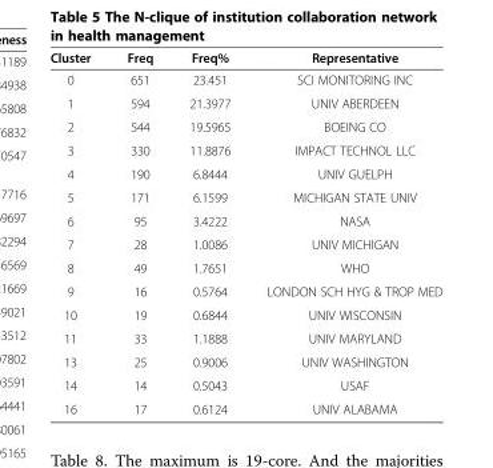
<table><thead><tr><td>Cluster</td><td>Freq</td><td>Freq%</td><td>Representative</td></tr></thead><tbody><tr><td>0</td><td>651</td><td>23.451</td><td>SCI MONITORING INC</td></tr><tr><td>1</td><td>594</td><td>21.3977</td><td>UNIV ABERDEEN</td></tr><tr><td>2</td><td>544</td><td>19.5965</td><td>BOEING CO</td></tr><tr><td>3</td><td>330</td><td>11.8876</td><td>IMPACT TECHNOL LLC</td></tr><tr><td>4</td><td>190</td><td>6.8444</td><td>UNIV GUELPH</td></tr><tr><td>5</td><td>171</td><td>6.1599</td><td>MICHIGAN STATE UNIV</td></tr><tr><td>6</td><td>95</td><td>3.4222</td><td>NASA</td></tr><tr><td>7</td><td>28</td><td>1.0086</td><td>UNIV MICHIGAN</td></tr><tr><td>8</td><td>49</td><td>1.7651</td><td>WHO</td></tr><tr><td>9</td><td>16</td><td>0.5764</td><td>LONDON SCH HYG &amp; TROP MED</td></tr><tr><td>10</td><td>19</td><td>0.6844</td><td>UNIV WISCONSIN</td></tr><tr><td>11</td><td>33</td><td>1.1888</td><td>UNIV MARYLAND</td></tr><tr><td>13</td><td>25</td><td>0.9006</td><td>UNIV WASHINGTON</td></tr><tr><td>14</td><td>14</td><td>0.5043</td><td>USAF</td></tr><tr><td>16</td><td>17</td><td>0.6124</td><td>UNIV ALABAMA</td></tr></tbody></table>